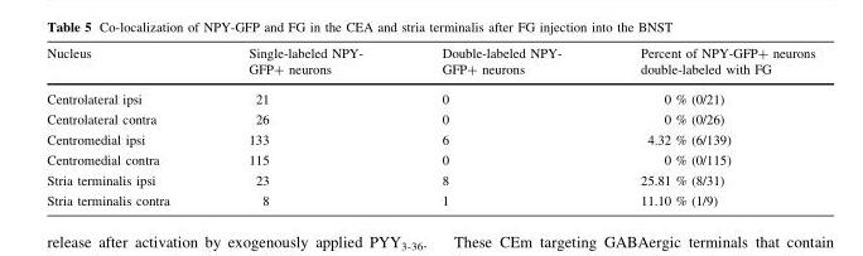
<table><thead><tr><td>Nucleus</td><td>Single-labeled NPY- GFP+ neurons</td><td>Double-labeled NPY- GFP+ neurons</td><td>Percent of NPY-GFP+ neurons double-labeled with FG</td></tr></thead><tbody><tr><td>Centrolateral ipsi</td><td>21</td><td>0</td><td>0 % (0/21)</td></tr><tr><td>Centrolateral contra</td><td>26</td><td>0</td><td>0 % (0/26)</td></tr><tr><td>Centromedial ipsi</td><td>133</td><td>6</td><td>4.32 % (6/139)</td></tr><tr><td>Centromedial contra</td><td>115</td><td>0</td><td>0 % (0/115)</td></tr><tr><td>Stria terminalis ipsi</td><td>23</td><td>8</td><td>25.81 % (8/31)</td></tr><tr><td>Stria terminalis contra</td><td>8</td><td>1</td><td>11.10 % (1/9)</td></tr></tbody></table>